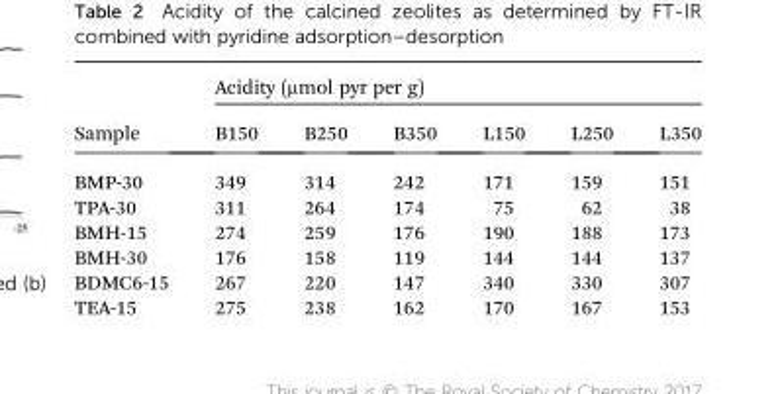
<table><thead><tr><td rowspan="2">Sample</td><td colspan="6">Acidity (μmol pyr per g)</td></tr><tr><td>B150</td><td>B250</td><td>B350</td><td>L150</td><td>L250</td><td>L350</td></tr></thead><tbody><tr><td>BMP-30</td><td>349</td><td>314</td><td>242</td><td>171</td><td>159</td><td>151</td></tr><tr><td>TPA-30</td><td>311</td><td>264</td><td>174</td><td>75</td><td>62</td><td>38</td></tr><tr><td>BMH-15</td><td>274</td><td>259</td><td>176</td><td>190</td><td>188</td><td>173</td></tr><tr><td>BMH-30</td><td>176</td><td>158</td><td>119</td><td>144</td><td>144</td><td>137</td></tr><tr><td>BDMC6-15</td><td>267</td><td>220</td><td>147</td><td>340</td><td>330</td><td>307</td></tr><tr><td>TEA-15</td><td>275</td><td>238</td><td>162</td><td>170</td><td>167</td><td>153</td></tr></tbody></table>